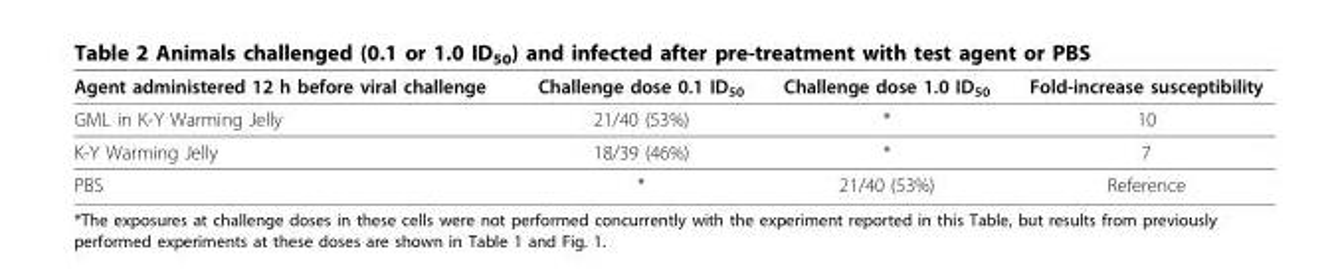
<table><thead><tr><td>Agent administered 12 h before viral challenge</td><td>Challenge dose 0.1 ID<sub>50</sub></td><td>Challenge dose 1.0 ID<sub>50</sub></td><td>Fold-increase susceptibility</td></tr></thead><tbody><tr><td>GML in K-Y Warming Jelly</td><td>21/40 (53%)</td><td>*</td><td>10</td></tr><tr><td>K-Y Warming Jelly</td><td>18/39 (46%)</td><td>*</td><td>7</td></tr><tr><td>PBS</td><td>*</td><td>21/40 (53%)</td><td>Reference</td></tr></tbody></table>